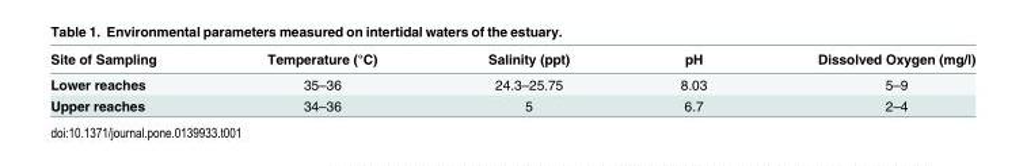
<table><thead><tr><td>Site of Sampling</td><td>Temperature (°C)</td><td>Salinity (ppt)</td><td>pH</td><td>Dissolved Oxygen (mg/l)</td></tr></thead><tbody><tr><td>Lower reaches</td><td>35–36</td><td>24.3–25.75</td><td>8.03</td><td>5–9</td></tr><tr><td>Upper reaches</td><td>34–36</td><td>5</td><td>6.7</td><td>2–4</td></tr></tbody></table>